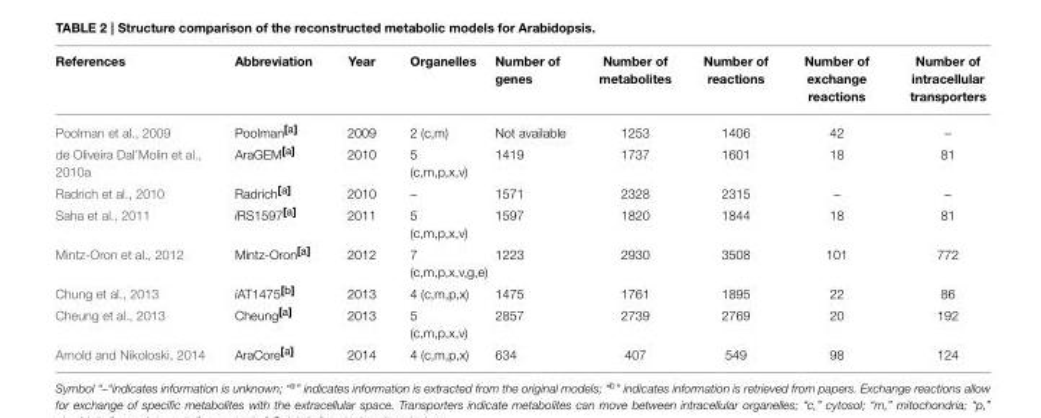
<table><thead><tr><td>References</td><td>Abbreviation</td><td>Year</td><td>Organelles</td><td>Number of genes</td><td>Number of metabolites</td><td>Number of reactions</td><td>Number of exchange reactions</td><td>Number of intracellular transporters</td></tr></thead><tbody><tr><td>Poolman et al., 2009</td><td>Poolman<sup>[a]</sup></td><td>2009</td><td>2 (c,m)</td><td>Not available</td><td>1253</td><td>1406</td><td>42</td><td>–</td></tr><tr><td>de Oliveira Dal’Molin et al., 2010a</td><td>AraGEM<sup>[a]</sup></td><td>2010</td><td>5 (c,m,p,x,v)</td><td>1419</td><td>1737</td><td>1601</td><td>18</td><td>81</td></tr><tr><td>Radrich et al., 2010</td><td>Radrich<sup>[a]</sup></td><td>2010</td><td>–</td><td>1571</td><td>2328</td><td>2315</td><td>–</td><td>–</td></tr><tr><td>Saha et al., 2011</td><td>iRS1597<sup>[a]</sup></td><td>2011</td><td>5 (c,m,p,x,v)</td><td>1597</td><td>1820</td><td>1844</td><td>18</td><td>81</td></tr><tr><td>Mintz-Oron et al., 2012</td><td>Mintz-Oron<sup>[a]</sup></td><td>2012</td><td>7 (c,m,p,x,v,g,e)</td><td>1223</td><td>2930</td><td>3508</td><td>101</td><td>772</td></tr><tr><td>Chung et al., 2013</td><td>iAT1475<sup>[b]</sup></td><td>2013</td><td>4 (c,m,p,x)</td><td>1475</td><td>1761</td><td>1895</td><td>22</td><td>86</td></tr><tr><td>Cheung et al., 2013</td><td>Cheung<sup>[a]</sup></td><td>2013</td><td>5 (c,m,p,x,v)</td><td>2857</td><td>2739</td><td>2769</td><td>20</td><td>192</td></tr><tr><td>Arnold and Nikoloski, 2014</td><td>AraCore<sup>[a]</sup></td><td>2014</td><td>4 (c,m,p,x)</td><td>634</td><td>407</td><td>549</td><td>98</td><td>124</td></tr></tbody></table>